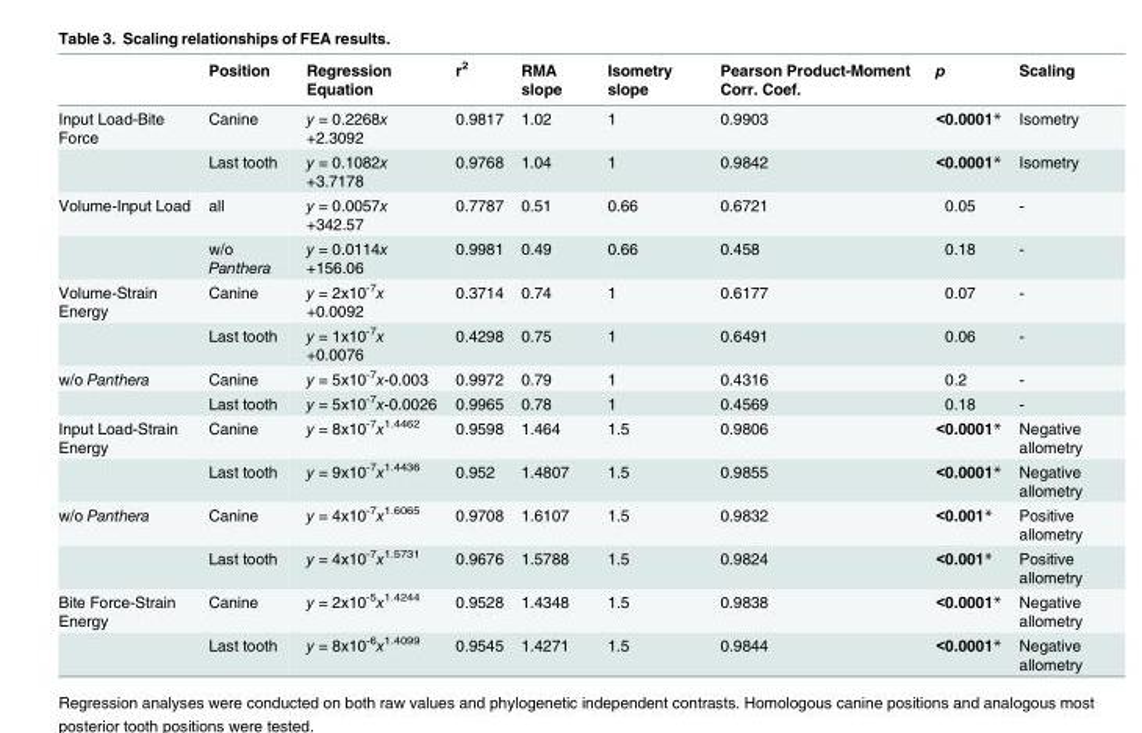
<table><thead><tr><td></td><td>Position</td><td>Regression Equation</td><td>r<sup>2</sup></td><td>RMA slope</td><td>Isometry slope</td><td>Pearson Product-Moment Corr. Coef.</td><td>p</td><td>Scaling</td></tr></thead><tbody><tr><td rowspan="2">Input Load-Bite Force</td><td>Canine</td><td>y = 0.2268x +2.3092</td><td>0.9817</td><td>1.02</td><td>1</td><td>0.9903</td><td>&lt;0.0001*</td><td>Isometry</td></tr><tr><td>Last tooth</td><td>y = 0.1082x +3.7178</td><td>0.9768</td><td>1.04</td><td>1</td><td>0.9842</td><td>&lt;0.0001*</td><td>Isometry</td></tr><tr><td rowspan="2">Volume-Input Load</td><td>all</td><td>y = 0.0057x +342.57</td><td>0.7787</td><td>0.51</td><td>0.66</td><td>0.6721</td><td>0.05</td><td>-</td></tr><tr><td>w/o Panthera</td><td>y = 0.0114x +156.06</td><td>0.9981</td><td>0.49</td><td>0.66</td><td>0.458</td><td>0.18</td><td>-</td></tr><tr><td rowspan="2">Volume-Strain Energy</td><td>Canine</td><td>y = 2x10<sup>-7</sup>x +0.0092</td><td>0.3714</td><td>0.74</td><td>1</td><td>0.6177</td><td>0.07</td><td>-</td></tr><tr><td>Last tooth</td><td>y = 1x10<sup>-7</sup>x +0.0076</td><td>0.4298</td><td>0.75</td><td>1</td><td>0.6491</td><td>0.06</td><td>-</td></tr><tr><td rowspan="2">w/o Panthera</td><td>Canine</td><td>y = 5x10<sup>-7</sup>x-0.003</td><td>0.9972</td><td>0.79</td><td>1</td><td>0.4316</td><td>0.2</td><td>-</td></tr><tr><td>Last tooth</td><td>y = 5x10<sup>-7</sup>x-0.0026</td><td>0.9965</td><td>0.78</td><td>1</td><td>0.4569</td><td>0.18</td><td>-</td></tr><tr><td rowspan="2">Input Load-Strain Energy</td><td>Canine</td><td>y = 8x10<sup>-7</sup>x<sup>1.4462</sup></td><td>0.9598</td><td>1.464</td><td>1.5</td><td>0.9806</td><td>&lt;0.0001*</td><td>Negative allometry</td></tr><tr><td>Last tooth</td><td>y = 9x10<sup>-7</sup>x<sup>1.4436</sup></td><td>0.952</td><td>1.4807</td><td>1.5</td><td>0.9855</td><td>&lt;0.0001*</td><td>Negative allometry</td></tr><tr><td rowspan="2">w/o Panthera</td><td>Canine</td><td>y = 4x10<sup>-7</sup>x<sup>1.6065</sup></td><td>0.9708</td><td>1.6107</td><td>1.5</td><td>0.9832</td><td>&lt;0.001*</td><td>Positive allometry</td></tr><tr><td>Last tooth</td><td>y = 4x10<sup>-7</sup>x<sup>1.5731</sup></td><td>0.9676</td><td>1.5788</td><td>1.5</td><td>0.9824</td><td>&lt;0.001*</td><td>Positive allometry</td></tr><tr><td rowspan="2">Bite Force-Strain Energy</td><td>Canine</td><td>y = 2x10<sup>-5</sup>x<sup>1.4244</sup></td><td>0.9528</td><td>1.4348</td><td>1.5</td><td>0.9838</td><td>&lt;0.0001*</td><td>Negative allometry</td></tr><tr><td>Last tooth</td><td>y = 8x10<sup>-6</sup>x<sup>1.4099</sup></td><td>0.9545</td><td>1.4271</td><td>1.5</td><td>0.9844</td><td>&lt;0.0001*</td><td>Negative allometry</td></tr></tbody></table>